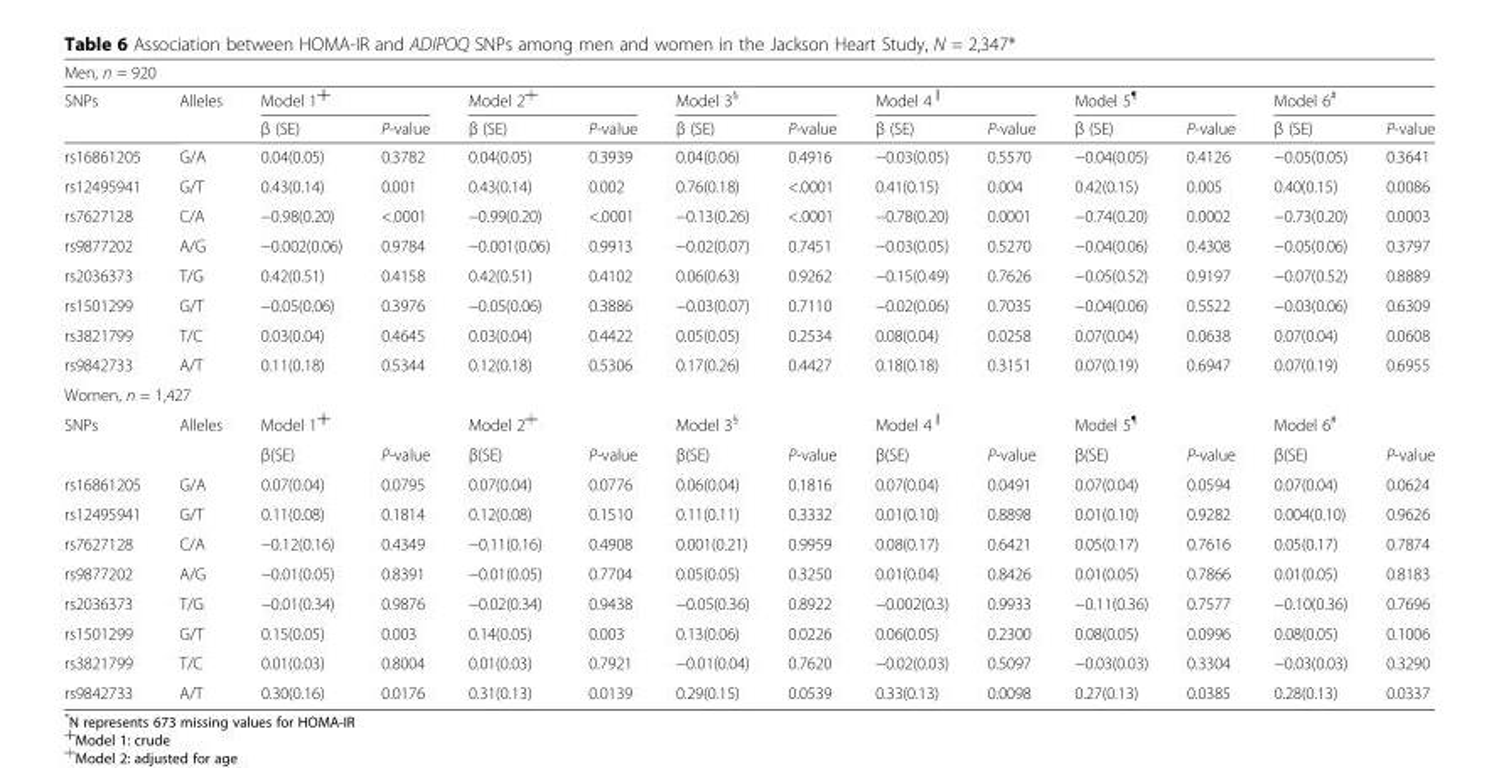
<table><thead><tr><td colspan="14">Men, n = 920</td></tr><tr><td rowspan="2">SNPs</td><td rowspan="2">Alleles</td><td colspan="2">Model 1<sup>┼</sup></td><td colspan="2">Model 2<sup>╪</sup></td><td colspan="2">Model 3<sup>§</sup></td><td colspan="2">Model 4<sup>║</sup></td><td colspan="2">Model 5<sup>¶</sup></td><td colspan="2">Model 6<sup>#</sup></td></tr><tr><td>β (SE)</td><td>P-value</td><td>β (SE)</td><td>P-value</td><td>β (SE)</td><td>P-value</td><td>β (SE)</td><td>P-value</td><td>β (SE)</td><td>P-value</td><td>β (SE)</td><td>P-value</td></tr></thead><tbody><tr><td>rs16861205</td><td>G/A</td><td>0.04(0.05)</td><td>0.3782</td><td>0.04(0.05)</td><td>0.3939</td><td>0.04(0.06)</td><td>0.4916</td><td>−0.03(0.05)</td><td>0.5570</td><td>−0.04(0.05)</td><td>0.4126</td><td>−0.05(0.05)</td><td>0.3641</td></tr><tr><td>rs12495941</td><td>G/T</td><td>0.43(0.14)</td><td>0.001</td><td>0.43(0.14)</td><td>0.002</td><td>0.76(0.18)</td><td>&lt;.0001</td><td>0.41(0.15)</td><td>0.004</td><td>0.42(0.15)</td><td>0.005</td><td>0.40(0.15)</td><td>0.0086</td></tr><tr><td>rs7627128</td><td>C/A</td><td>−0.98(0.20)</td><td>&lt;.0001</td><td>−0.99(0.20)</td><td>&lt;.0001</td><td>−0.13(0.26)</td><td>&lt;.0001</td><td>−0.78(0.20)</td><td>0.0001</td><td>−0.74(0.20)</td><td>0.0002</td><td>−0.73(0.20)</td><td>0.0003</td></tr><tr><td>rs9877202</td><td>A/G</td><td>−0.002(0.06)</td><td>0.9784</td><td>−0.001(0.06)</td><td>0.9913</td><td>−0.02(0.07)</td><td>0.7451</td><td>−0.03(0.05)</td><td>0.5270</td><td>−0.04(0.06)</td><td>0.4308</td><td>−0.05(0.06)</td><td>0.3797</td></tr><tr><td>rs2036373</td><td>T/G</td><td>0.42(0.51)</td><td>0.4158</td><td>0.42(0.51)</td><td>0.4102</td><td>0.06(0.63)</td><td>0.9262</td><td>−0.15(0.49)</td><td>0.7626</td><td>−0.05(0.52)</td><td>0.9197</td><td>−0.07(0.52)</td><td>0.8889</td></tr><tr><td>rs1501299</td><td>G/T</td><td>−0.05(0.06)</td><td>0.3976</td><td>−0.05(0.06)</td><td>0.3886</td><td>−0.03(0.07)</td><td>0.7110</td><td>−0.02(0.06)</td><td>0.7035</td><td>−0.04(0.06)</td><td>0.5522</td><td>−0.03(0.06)</td><td>0.6309</td></tr><tr><td>rs3821799</td><td>T/C</td><td>0.03(0.04)</td><td>0.4645</td><td>0.03(0.04)</td><td>0.4422</td><td>0.05(0.05)</td><td>0.2534</td><td>0.08(0.04)</td><td>0.0258</td><td>0.07(0.04)</td><td>0.0638</td><td>0.07(0.04)</td><td>0.0608</td></tr><tr><td>rs9842733</td><td>A/T</td><td>0.11(0.18)</td><td>0.5344</td><td>0.12(0.18)</td><td>0.5306</td><td>0.17(0.26)</td><td>0.4427</td><td>0.18(0.18)</td><td>0.3151</td><td>0.07(0.19)</td><td>0.6947</td><td>0.07(0.19)</td><td>0.6955</td></tr><tr><td colspan="14">Women, n = 1,427</td></tr><tr><td rowspan="2">SNPs</td><td>Alleles</td><td colspan="2">Model 1<sup>┼</sup></td><td colspan="2">Model 2<sup>╪</sup></td><td colspan="2">Model 3<sup>§</sup></td><td colspan="2">Model 4<sup>║</sup></td><td colspan="2">Model 5<sup>¶</sup></td><td colspan="2">Model 6<sup>#</sup></td></tr><tr><td></td><td>β(SE)</td><td>P-value</td><td>β(SE)</td><td>P-value</td><td>β(SE)</td><td>P-value</td><td>β(SE)</td><td>P-value</td><td>β(SE)</td><td>P-value</td><td>β(SE)</td><td>P-value</td></tr><tr><td>rs16861205</td><td>G/A</td><td>0.07(0.04)</td><td>0.0795</td><td>0.07(0.04)</td><td>0.0776</td><td>0.06(0.04)</td><td>0.1816</td><td>0.07(0.04)</td><td>0.0491</td><td>0.07(0.04)</td><td>0.0594</td><td>0.07(0.04)</td><td>0.0624</td></tr><tr><td>rs12495941</td><td>G/T</td><td>0.11(0.08)</td><td>0.1814</td><td>0.12(0.08)</td><td>0.1510</td><td>0.11(0.11)</td><td>0.3332</td><td>0.01(0.10)</td><td>0.8898</td><td>0.01(0.10)</td><td>0.9282</td><td>0.004(0.10)</td><td>0.9626</td></tr><tr><td>rs7627128</td><td>C/A</td><td>−0.12(0.16)</td><td>0.4349</td><td>−0.11(0.16)</td><td>0.4908</td><td>0.001(0.21)</td><td>0.9959</td><td>0.08(0.17)</td><td>0.6421</td><td>0.05(0.17)</td><td>0.7616</td><td>0.05(0.17)</td><td>0.7874</td></tr><tr><td>rs9877202</td><td>A/G</td><td>−0.01(0.05)</td><td>0.8391</td><td>−0.01(0.05)</td><td>0.7704</td><td>0.05(0.05)</td><td>0.3250</td><td>0.01(0.04)</td><td>0.8426</td><td>0.01(0.05)</td><td>0.7866</td><td>0.01(0.05)</td><td>0.8183</td></tr><tr><td>rs2036373</td><td>T/G</td><td>−0.01(0.34)</td><td>0.9876</td><td>−0.02(0.34)</td><td>0.9438</td><td>−0.05(0.36)</td><td>0.8922</td><td>−0.002(0.3)</td><td>0.9933</td><td>−0.11(0.36)</td><td>0.7577</td><td>−0.10(0.36)</td><td>0.7696</td></tr><tr><td>rs1501299</td><td>G/T</td><td>0.15(0.05)</td><td>0.003</td><td>0.14(0.05)</td><td>0.003</td><td>0.13(0.06)</td><td>0.0226</td><td>0.06(0.05)</td><td>0.2300</td><td>0.08(0.05)</td><td>0.0996</td><td>0.08(0.05)</td><td>0.1006</td></tr><tr><td>rs3821799</td><td>T/C</td><td>0.01(0.03)</td><td>0.8004</td><td>0.01(0.03)</td><td>0.7921</td><td>−0.01(0.04)</td><td>0.7620</td><td>−0.02(0.03)</td><td>0.5097</td><td>−0.03(0.03)</td><td>0.3304</td><td>−0.03(0.03)</td><td>0.3290</td></tr><tr><td>rs9842733</td><td>A/T</td><td>0.30(0.16)</td><td>0.0176</td><td>0.31(0.13)</td><td>0.0139</td><td>0.29(0.15)</td><td>0.0539</td><td>0.33(0.13)</td><td>0.0098</td><td>0.27(0.13)</td><td>0.0385</td><td>0.28(0.13)</td><td>0.0337</td></tr></tbody></table>